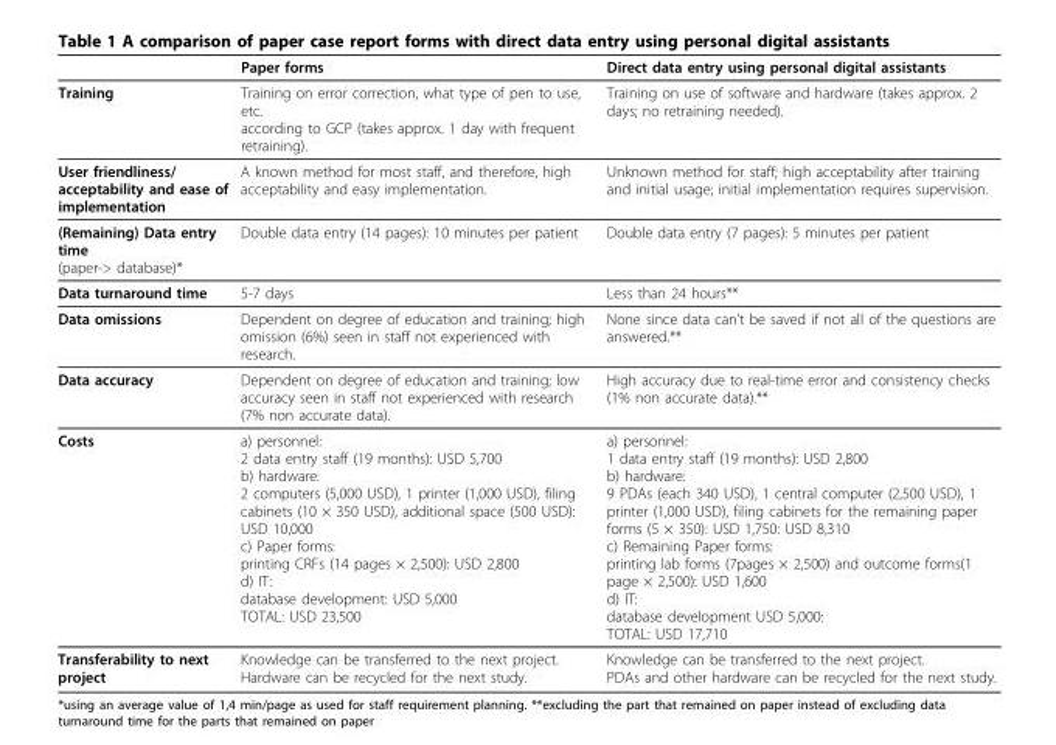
<table><thead><tr><td></td><td>Paper forms</td><td>Direct data entry using personal digital assistants</td></tr></thead><tbody><tr><td>Training</td><td>Training on error correction, what type of pen to use, etc. according to GCP (takes approx. 1 day with frequent retraining).</td><td>Training on use of software and hardware (takes approx. 2 days; no retraining needed).</td></tr><tr><td>User friendliness/ acceptability and ease of implementation</td><td>A known method for most staff, and therefore, high acceptability and easy implementation.</td><td>Unknown method for staff; high acceptability after training and initial usage; initial implementation requires supervision.</td></tr><tr><td>(Remaining) Data entry time (paper-&gt; database)*</td><td>Double data entry (14 pages): 10 minutes per patient</td><td>Double data entry (7 pages): 5 minutes per patient</td></tr><tr><td>Data turnaround time</td><td>5-7 days</td><td>Less than 24 hours**</td></tr><tr><td>Data omissions</td><td>Dependent on degree of education and training; high omission (6%) seen in staff not experienced with research.</td><td>None since data can’t be saved if not all of the questions are answered.**</td></tr><tr><td>Data accuracy</td><td>Dependent on degree of education and training; low accuracy seen in staff not experienced with research (7% non accurate data).</td><td>High accuracy due to real-time error and consistency checks (1% non accurate data).**</td></tr><tr><td>Costs</td><td>a) personnel: 2 data entry staff (19 months): USD 5,700 b) hardware: 2 computers (5,000 USD), 1 printer (1,000 USD), filing cabinets (10 × 350 USD), additional space (500 USD): USD 10,000 c) Paper forms: printing CRFs (14 pages × 2,500): USD 2,800 d) IT: database development: USD 5,000 TOTAL: USD 23,500</td><td>a) personnel: 1 data entry staff (19 months): USD 2,800 b) hardware: 9 PDAs (each 340 USD), 1 central computer (2,500 USD), 1 printer (1,000 USD), filing cabinets for the remaining paper forms (5 × 350): USD 1,750: USD 8,310 c) Remaining Paper forms: printing lab forms (7pages × 2,500) and outcome forms(1 page × 2,500): USD 1,600 d) IT: database development USD 5,000: TOTAL: USD 17,710</td></tr><tr><td>Transferability to next project</td><td>Knowledge can be transferred to the next project. Hardware can be recycled for the next study.</td><td>Knowledge can be transferred to the next project. PDAs and other hardware can be recycled for the next study.</td></tr></tbody></table>